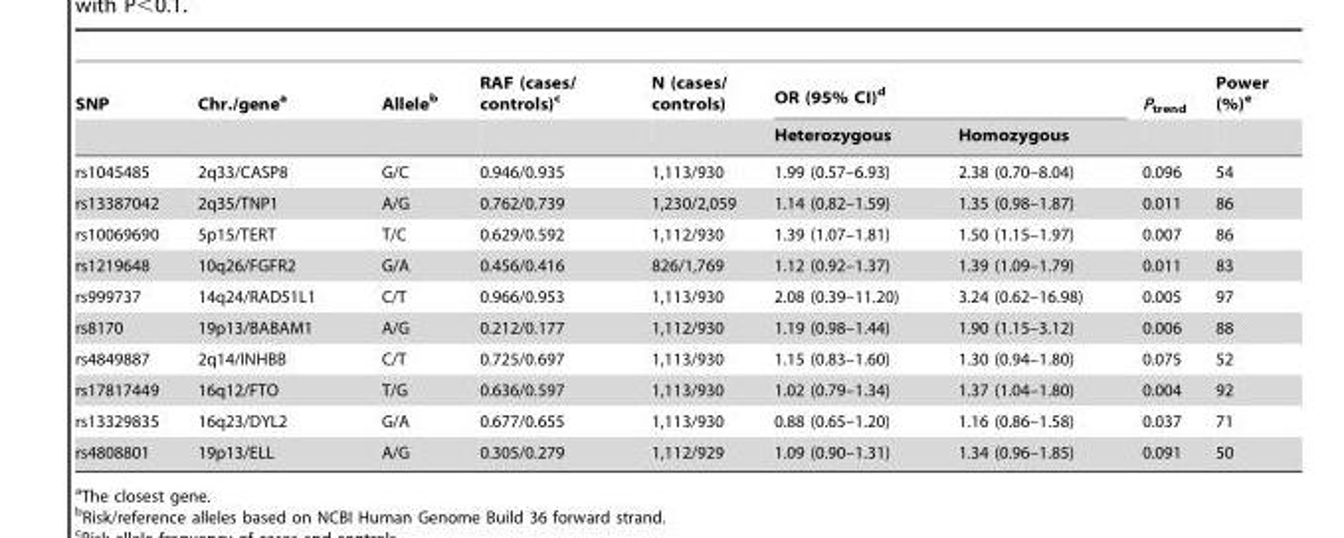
<table><thead><tr><td rowspan="2">SNP</td><td rowspan="2">Chr./gene<sup>a</sup></td><td rowspan="2">Allele<sup>b</sup></td><td rowspan="2">RAF (cases/ controls)<sup>c</sup></td><td rowspan="2">N (cases/ controls)</td><td colspan="2">OR (95% CI)<sup>d</sup></td><td rowspan="2">P<sub>trend</sub></td><td rowspan="2">Power (%)<sup>e</sup></td></tr><tr><td>Heterozygous</td><td>Homozygous</td></tr></thead><tbody><tr><td>rs1045485</td><td>2q33/CASP8</td><td>G/C</td><td>0.946/0.935</td><td>1,113/930</td><td>1.99 (0.57–6.93)</td><td>2.38 (0.70–8.04)</td><td>0.096</td><td>54</td></tr><tr><td>rs13387042</td><td>2q35/TNP1</td><td>A/G</td><td>0.762/0.739</td><td>1,230/2,059</td><td>1.14 (0.82–1.59)</td><td>1.35 (0.98–1.87)</td><td>0.011</td><td>86</td></tr><tr><td>rs10069690</td><td>5p15/TERT</td><td>T/C</td><td>0.629/0.592</td><td>1,112/930</td><td>1.39 (1.07–1.81)</td><td>1.50 (1.15–1.97)</td><td>0.007</td><td>86</td></tr><tr><td>rs1219648</td><td>10q26/FGFR2</td><td>G/A</td><td>0.456/0.416</td><td>826/1,769</td><td>1.12 (0.92–1.37)</td><td>1.39 (1.09–1.79)</td><td>0.011</td><td>83</td></tr><tr><td>rs999737</td><td>14q24/RAD51L1</td><td>C/T</td><td>0.966/0.953</td><td>1,113/930</td><td>2.08 (0.39–11.20)</td><td>3.24 (0.62–16.98)</td><td>0.005</td><td>97</td></tr><tr><td>rs8170</td><td>19p13/BABAM1</td><td>A/G</td><td>0.212/0.177</td><td>1,112/930</td><td>1.19 (0.98–1.44)</td><td>1.90 (1.15–3.12)</td><td>0.006</td><td>88</td></tr><tr><td>rs4849887</td><td>2q14/INHBB</td><td>C/T</td><td>0.725/0.697</td><td>1,113/930</td><td>1.15 (0.83–1.60)</td><td>1.30 (0.94–1.80)</td><td>0.075</td><td>52</td></tr><tr><td>rs17817449</td><td>16q12/FTO</td><td>T/G</td><td>0.636/0.597</td><td>1,113/930</td><td>1.02 (0.79–1.34)</td><td>1.37 (1.04–1.80)</td><td>0.004</td><td>92</td></tr><tr><td>rs13329835</td><td>16q23/DYL2</td><td>G/A</td><td>0.677/0.655</td><td>1,113/930</td><td>0.88 (0.65–1.20)</td><td>1.16 (0.86–1.58)</td><td>0.037</td><td>71</td></tr><tr><td>rs4808801</td><td>19p13/ELL</td><td>A/G</td><td>0.305/0.279</td><td>1,112/929</td><td>1.09 (0.90–1.31)</td><td>1.34 (0.96–1.85)</td><td>0.091</td><td>50</td></tr></tbody></table>